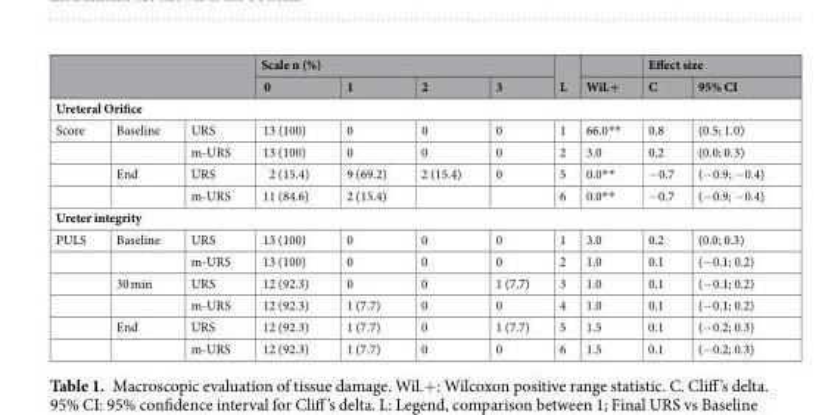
<table><thead><tr><td rowspan="2"></td><td rowspan="2"></td><td rowspan="2"></td><td colspan="4">Scale n (%)</td><td rowspan="2">L</td><td rowspan="2">Wil.+</td><td colspan="2">Effect size</td></tr><tr><td>0</td><td>1</td><td>2</td><td>3</td><td>C</td><td>95% CI</td></tr></thead><tbody><tr><td colspan="11">Ureteral Orifice</td></tr><tr><td rowspan="4">Score</td><td>Baseline</td><td>URS</td><td>13 (100)</td><td>0</td><td>0</td><td>0</td><td>1</td><td>66.0**</td><td>0.8</td><td>(0.5; 1.0)</td></tr><tr><td></td><td>m-URS</td><td>13 (100)</td><td>0</td><td>0</td><td>0</td><td>2</td><td>3.0</td><td>0.2</td><td>(0.0; 0.3)</td></tr><tr><td>End</td><td>URS</td><td>2 (15.4)</td><td>9 (69.2)</td><td>2 (15.4)</td><td>0</td><td>5</td><td>0.0**</td><td>−0.7</td><td>(−0.9; −0.4)</td></tr><tr><td></td><td>m-URS</td><td>11 (84.6)</td><td>2 (15.4)</td><td></td><td></td><td>6</td><td>0.0**</td><td>−0.7</td><td>(−0.9; −0.4)</td></tr><tr><td colspan="11">Ureter integrity</td></tr><tr><td rowspan="6">PULS</td><td>Baseline</td><td>URS</td><td>13 (100)</td><td>0</td><td>0</td><td>0</td><td>1</td><td>3.0</td><td>0.2</td><td>(0.0; 0.3)</td></tr><tr><td></td><td>m-URS</td><td>13 (100)</td><td>0</td><td>0</td><td>0</td><td>2</td><td>1.0</td><td>0.1</td><td>(−0.1; 0.2)</td></tr><tr><td>30 min</td><td>URS</td><td>12 (92.3)</td><td>0</td><td>0</td><td>1 (7.7)</td><td>3</td><td>1.0</td><td>0.1</td><td>(−0.1; 0.2)</td></tr><tr><td></td><td>m-URS</td><td>12 (92.3)</td><td>1 (7.7)</td><td>0</td><td>0</td><td>4</td><td>1.0</td><td>0.1</td><td>(−0.1; 0.2)</td></tr><tr><td>End</td><td>URS</td><td>12 (92.3)</td><td>1 (7.7)</td><td>0</td><td>1 (7.7)</td><td>5</td><td>1.5</td><td>0.1</td><td>(−0.2; 0.3)</td></tr><tr><td></td><td>m-URS</td><td>12 (92.3)</td><td>1 (7.7)</td><td>0</td><td>0</td><td>6</td><td>1.5</td><td>0.1</td><td>(−0.2; 0.3)</td></tr></tbody></table>